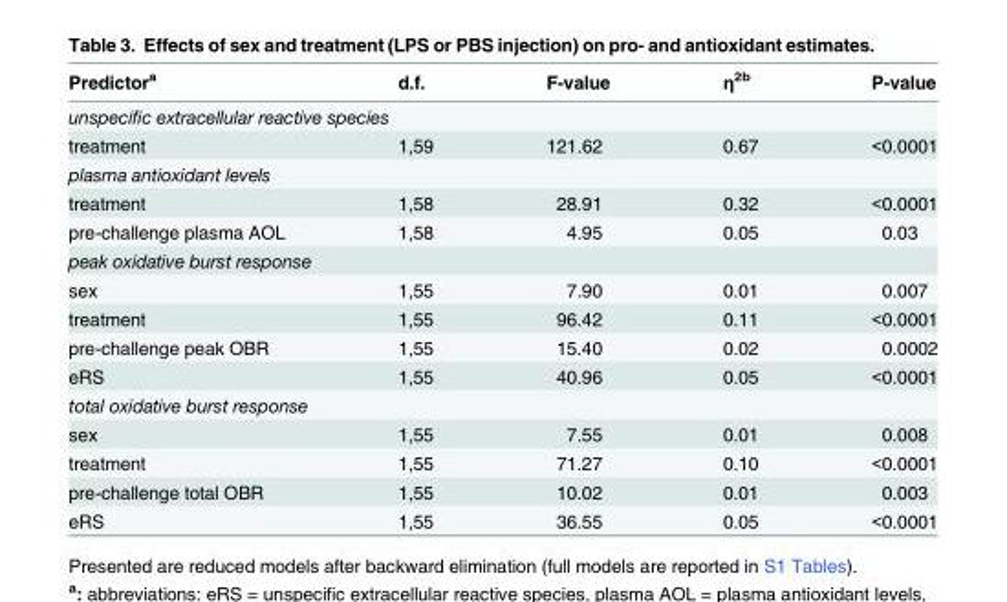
<table><thead><tr><td>Predictor<sup>a</sup></td><td>d.f.</td><td>F-value</td><td>η<sup>2b</sup></td><td>P-value</td></tr></thead><tbody><tr><td colspan="5">unspecific extracellular reactive species</td></tr><tr><td>treatment</td><td>1,59</td><td>121.62</td><td>0.67</td><td>&lt;0.0001</td></tr><tr><td colspan="5">plasma antioxidant levels</td></tr><tr><td>treatment</td><td>1,58</td><td>28.91</td><td>0.32</td><td>&lt;0.0001</td></tr><tr><td>pre-challenge plasma AOL</td><td>1,58</td><td>4.95</td><td>0.05</td><td>0.03</td></tr><tr><td colspan="5">peak oxidative burst response</td></tr><tr><td>sex</td><td>1,55</td><td>7.90</td><td>0.01</td><td>0.007</td></tr><tr><td>treatment</td><td>1,55</td><td>96.42</td><td>0.11</td><td>&lt;0.0001</td></tr><tr><td>pre-challenge peak OBR</td><td>1,55</td><td>15.40</td><td>0.02</td><td>0.0002</td></tr><tr><td>eRS</td><td>1,55</td><td>40.96</td><td>0.05</td><td>&lt;0.0001</td></tr><tr><td colspan="5">total oxidative burst response</td></tr><tr><td>sex</td><td>1,55</td><td>7.55</td><td>0.01</td><td>0.008</td></tr><tr><td>treatment</td><td>1,55</td><td>71.27</td><td>0.10</td><td>&lt;0.0001</td></tr><tr><td>pre-challenge total OBR</td><td>1,55</td><td>10.02</td><td>0.01</td><td>0.003</td></tr><tr><td>eRS</td><td>1,55</td><td>36.55</td><td>0.05</td><td>&lt;0.0001</td></tr></tbody></table>